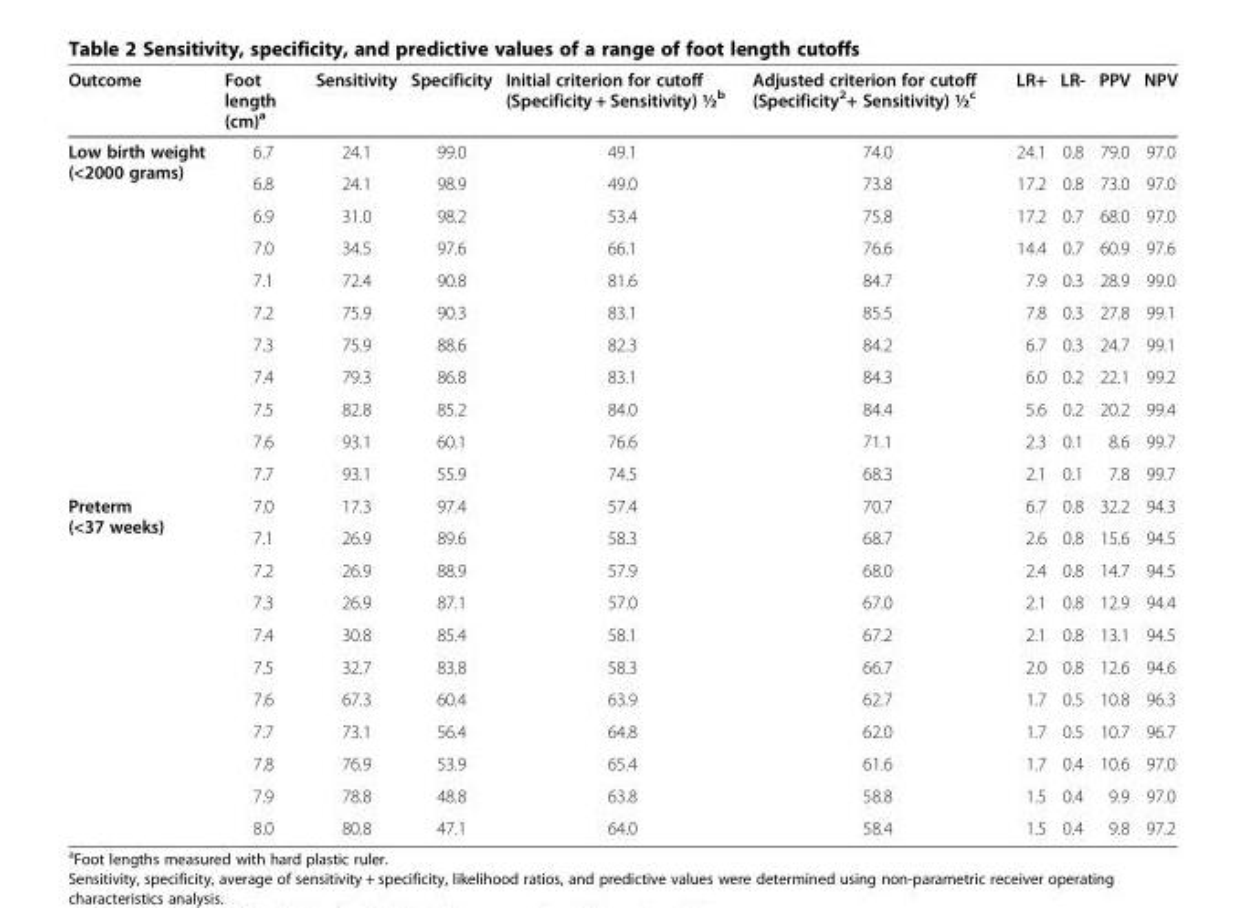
<table><thead><tr><td>Outcome</td><td>Foot length (cm)<sup>a</sup></td><td>Sensitivity</td><td>Specificity</td><td>Initial criterion for cutoff (Specificity + Sensitivity) ½<sup>b</sup></td><td>Adjusted criterion for cutoff (Specificity<sup>2</sup>+ Sensitivity) ½<sup>c</sup></td><td>LR+</td><td>LR-</td><td>PPV</td><td>NPV</td></tr></thead><tbody><tr><td rowspan="11">Low birth weight (&lt;2000 grams)</td><td>6.7</td><td>24.1</td><td>99.0</td><td>49.1</td><td>74.0</td><td>24.1</td><td>0.8</td><td>79.0</td><td>97.0</td></tr><tr><td>6.8</td><td>24.1</td><td>98.9</td><td>49.0</td><td>73.8</td><td>17.2</td><td>0.8</td><td>73.0</td><td>97.0</td></tr><tr><td>6.9</td><td>31.0</td><td>98.2</td><td>53.4</td><td>75.8</td><td>17.2</td><td>0.7</td><td>68.0</td><td>97.0</td></tr><tr><td>7.0</td><td>34.5</td><td>97.6</td><td>66.1</td><td>76.6</td><td>14.4</td><td>0.7</td><td>60.9</td><td>97.6</td></tr><tr><td>7.1</td><td>72.4</td><td>90.8</td><td>81.6</td><td>84.7</td><td>7.9</td><td>0.3</td><td>28.9</td><td>99.0</td></tr><tr><td>7.2</td><td>75.9</td><td>90.3</td><td>83.1</td><td>85.5</td><td>7.8</td><td>0.3</td><td>27.8</td><td>99.1</td></tr><tr><td>7.3</td><td>75.9</td><td>88.6</td><td>82.3</td><td>84.2</td><td>6.7</td><td>0.3</td><td>24.7</td><td>99.1</td></tr><tr><td>7.4</td><td>79.3</td><td>86.8</td><td>83.1</td><td>84.3</td><td>6.0</td><td>0.2</td><td>22.1</td><td>99.2</td></tr><tr><td>7.5</td><td>82.8</td><td>85.2</td><td>84.0</td><td>84.4</td><td>5.6</td><td>0.2</td><td>20.2</td><td>99.4</td></tr><tr><td>7.6</td><td>93.1</td><td>60.1</td><td>76.6</td><td>71.1</td><td>2.3</td><td>0.1</td><td>8.6</td><td>99.7</td></tr><tr><td>7.7</td><td>93.1</td><td>55.9</td><td>74.5</td><td>68.3</td><td>2.1</td><td>0.1</td><td>7.8</td><td>99.7</td></tr><tr><td rowspan="11">Preterm (&lt;37 weeks)</td><td>7.0</td><td>17.3</td><td>97.4</td><td>57.4</td><td>70.7</td><td>6.7</td><td>0.8</td><td>32.2</td><td>94.3</td></tr><tr><td>7.1</td><td>26.9</td><td>89.6</td><td>58.3</td><td>68.7</td><td>2.6</td><td>0.8</td><td>15.6</td><td>94.5</td></tr><tr><td>7.2</td><td>26.9</td><td>88.9</td><td>57.9</td><td>68.0</td><td>2.4</td><td>0.8</td><td>14.7</td><td>94.5</td></tr><tr><td>7.3</td><td>26.9</td><td>87.1</td><td>57.0</td><td>67.0</td><td>2.1</td><td>0.8</td><td>12.9</td><td>94.4</td></tr><tr><td>7.4</td><td>30.8</td><td>85.4</td><td>58.1</td><td>67.2</td><td>2.1</td><td>0.8</td><td>13.1</td><td>94.5</td></tr><tr><td>7.5</td><td>32.7</td><td>83.8</td><td>58.3</td><td>66.7</td><td>2.0</td><td>0.8</td><td>12.6</td><td>94.6</td></tr><tr><td>7.6</td><td>67.3</td><td>60.4</td><td>63.9</td><td>62.7</td><td>1.7</td><td>0.5</td><td>10.8</td><td>96.3</td></tr><tr><td>7.7</td><td>73.1</td><td>56.4</td><td>64.8</td><td>62.0</td><td>1.7</td><td>0.5</td><td>10.7</td><td>96.7</td></tr><tr><td>7.8</td><td>76.9</td><td>53.9</td><td>65.4</td><td>61.6</td><td>1.7</td><td>0.4</td><td>10.6</td><td>97.0</td></tr><tr><td>7.9</td><td>78.8</td><td>48.8</td><td>63.8</td><td>58.8</td><td>1.5</td><td>0.4</td><td>9.9</td><td>97.0</td></tr><tr><td>8.0</td><td>80.8</td><td>47.1</td><td>64.0</td><td>58.4</td><td>1.5</td><td>0.4</td><td>9.8</td><td>97.2</td></tr></tbody></table>